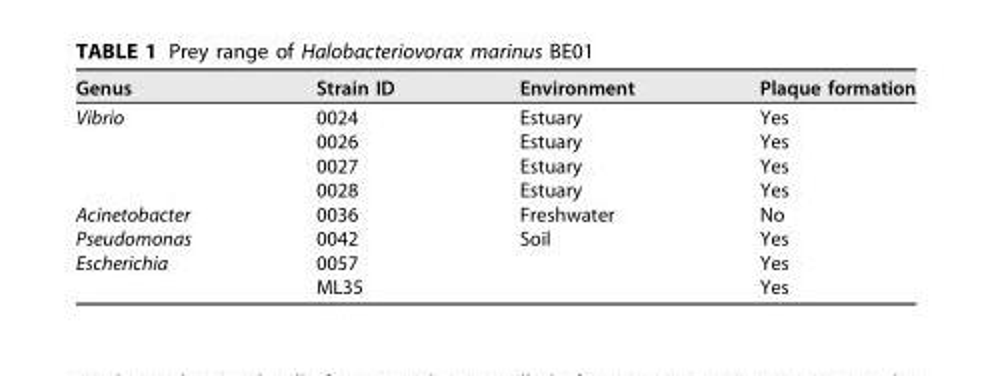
<table><thead><tr><td>Genus</td><td>Strain ID</td><td>Environment</td><td>Plaque formation</td></tr></thead><tbody><tr><td rowspan="4">Vibrio</td><td>0024</td><td>Estuary</td><td>Yes</td></tr><tr><td>0026</td><td>Estuary</td><td>Yes</td></tr><tr><td>0027</td><td>Estuary</td><td>Yes</td></tr><tr><td>0028</td><td>Estuary</td><td>Yes</td></tr><tr><td>Acinetobacter</td><td>0036</td><td>Freshwater</td><td>No</td></tr><tr><td>Pseudomonas</td><td>0042</td><td>Soil</td><td>Yes</td></tr><tr><td rowspan="2">Escherichia</td><td>0057</td><td></td><td>Yes</td></tr><tr><td>ML35</td><td></td><td>Yes</td></tr></tbody></table>